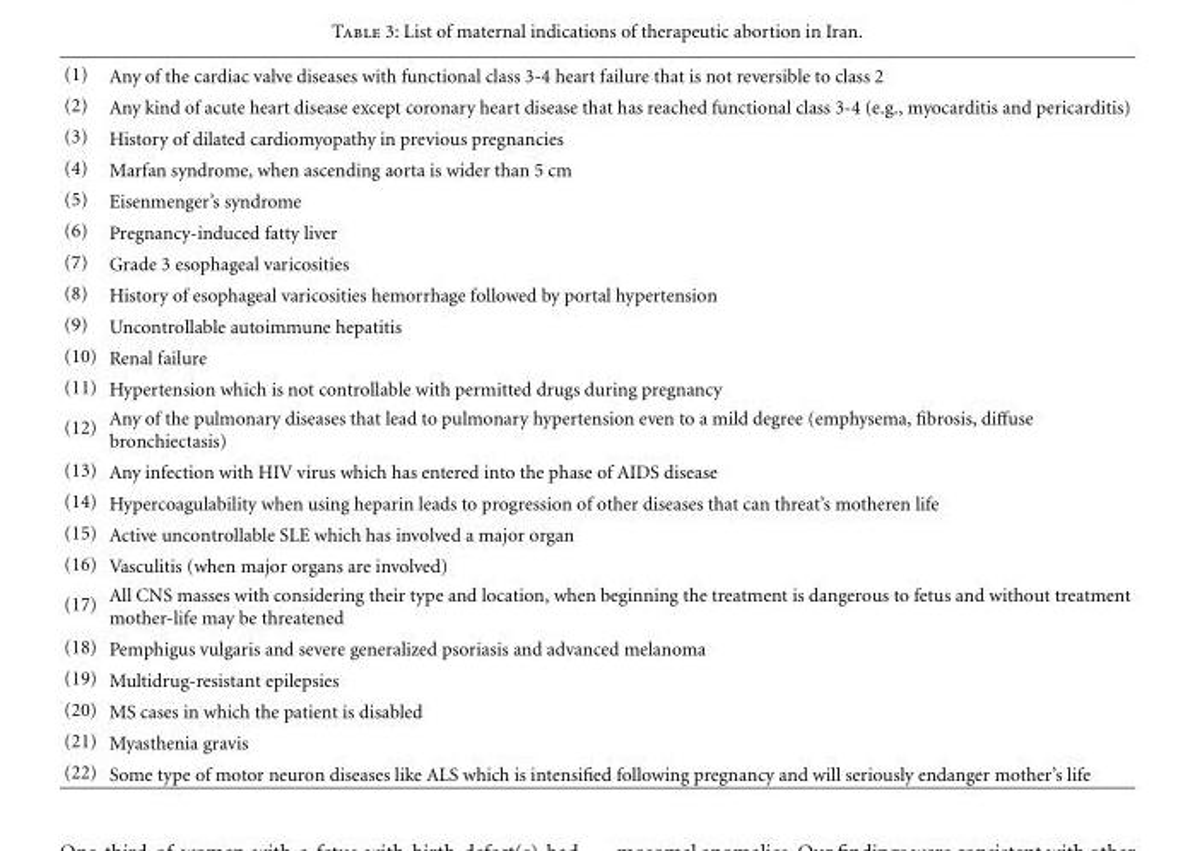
<table><tbody><tr><td>(1)</td><td>Any of the cardiac valve diseases with functional class 3-4 heart failure that is not reversible to class 2</td></tr><tr><td>(2)</td><td>Any kind of acute heart disease except coronary heart disease that has reached functional class 3-4 (e.g., myocarditis and pericarditis)</td></tr><tr><td>(3)</td><td>History of dilated cardiomyopathy in previous pregnancies</td></tr><tr><td>(4)</td><td>Marfan syndrome, when ascending aorta is wider than 5 cm</td></tr><tr><td>(5)</td><td>Eisenmenger’s syndrome</td></tr><tr><td>(6)</td><td>Pregnancy-induced fatty liver</td></tr><tr><td>(7)</td><td>Grade 3 esophageal varicosities</td></tr><tr><td>(8)</td><td>History of esophageal varicosities hemorrhage followed by portal hypertension</td></tr><tr><td>(9)</td><td>Uncontrollable autoimmune hepatitis</td></tr><tr><td>(10)</td><td>Renal failure</td></tr><tr><td>(11)</td><td>Hypertension which is not controllable with permitted drugs during pregnancy</td></tr><tr><td>(12)</td><td>Any of the pulmonary diseases that lead to pulmonary hypertension even to a mild degree (emphysema, fibrosis, diffuse bronchiectasis)</td></tr><tr><td>(13)</td><td>Any infection with HIV virus which has entered into the phase of AIDS disease</td></tr><tr><td>(14)</td><td>Hypercoagulability when using heparin leads to progression of other diseases that can threat’s motheren life</td></tr><tr><td>(15)</td><td>Active uncontrollable SLE which has involved a major organ</td></tr><tr><td>(16)</td><td>Vasculitis (when major organs are involved)</td></tr><tr><td>(17)</td><td>All CNS masses with considering their type and location, when beginning the treatment is dangerous to fetus and without treatment mother-life may be threatened</td></tr><tr><td>(18)</td><td>Pemphigus vulgaris and severe generalized psoriasis and advanced melanoma</td></tr><tr><td>(19)</td><td>Multidrug-resistant epilepsies</td></tr><tr><td>(20)</td><td>MS cases in which the patient is disabled</td></tr><tr><td>(21)</td><td>Myasthenia gravis</td></tr><tr><td>(22)</td><td>Some type of motor neuron diseases like ALS which is intensified following pregnancy and will seriously endanger mother’s life</td></tr></tbody></table>